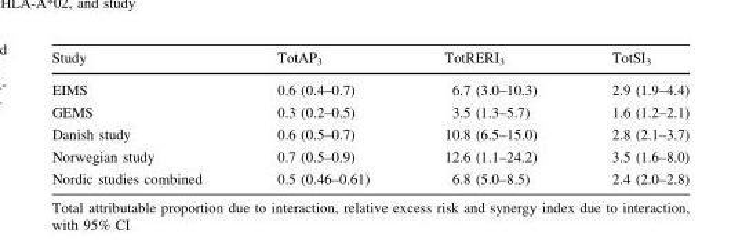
<table><thead><tr><td>Study</td><td>TotAP<sub>3</sub></td><td>TotRERI<sub>3</sub></td><td>TotSI<sub>3</sub></td></tr></thead><tbody><tr><td>EIMS</td><td>0.6 (0.4–0.7)</td><td>6.7 (3.0–10.3)</td><td>2.9 (1.9–4.4)</td></tr><tr><td>GEMS</td><td>0.3 (0.2–0.5)</td><td>3.5 (1.3–5.7)</td><td>1.6 (1.2–2.1)</td></tr><tr><td>Danish study</td><td>0.6 (0.5–0.7)</td><td>10.8 (6.5–15.0)</td><td>2.8 (2.1–3.7)</td></tr><tr><td>Norwegian study</td><td>0.7 (0.5–0.9)</td><td>12.6 (1.1–24.2)</td><td>3.5 (1.6–8.0)</td></tr><tr><td>Nordic studies combined</td><td>0.5 (0.46–0.61)</td><td>6.8 (5.0–8.5)</td><td>2.4 (2.0–2.8)</td></tr></tbody></table>